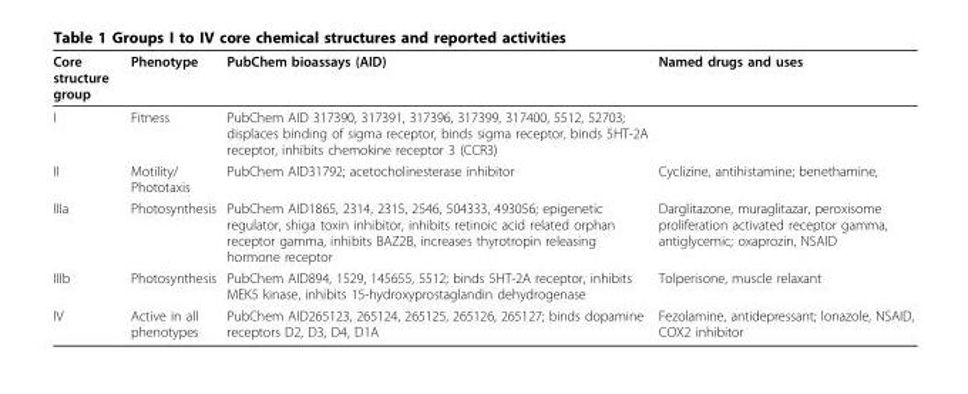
<table><thead><tr><td>Core structure group</td><td>Phenotype</td><td>PubChem bioassays (AID)</td><td>Named drugs and uses</td></tr></thead><tbody><tr><td>I</td><td>Fitness</td><td>PubChem AID 317390, 317391, 317396, 317399, 317400, 5512, 52703; displaces binding of sigma receptor, binds sigma receptor, binds 5HT-2A receptor, inhibits chemokine receptor 3 (CCR3)</td><td></td></tr><tr><td>II</td><td>Motility/ Phototaxis</td><td>PubChem AID31792; acetocholinesterase inhibitor</td><td>Cyclizine, antihistamine; benethamine,</td></tr><tr><td>IIIa</td><td>Photosynthesis</td><td>PubChem AID1865, 2314, 2315, 2546, 504333, 493056; epigenetic regulator, shiga toxin inhibitor, inhibits retinoic acid related orphan receptor gamma, inhibits BAZ2B, increases thyrotropin releasing hormone receptor</td><td>Darglitazone, muraglitazar, peroxisome proliferation activated receptor gamma, antiglycemic; oxaprozin, NSAID</td></tr><tr><td>IIIb</td><td>Photosynthesis</td><td>PubChem AID894, 1529, 145655, 5512; binds 5HT-2A receptor, inhibits MEK5 kinase, inhibits 15-hydroxyprostaglandin dehydrogenase</td><td>Tolperisone, muscle relaxant</td></tr><tr><td>IV</td><td>Active in all phenotypes</td><td>PubChem AID265123, 265124, 265125, 265126, 265127; binds dopamine receptors D2, D3, D4, D1A</td><td>Fezolamine, antidepressant; lonazole, NSAID, COX2 inhibitor</td></tr></tbody></table>